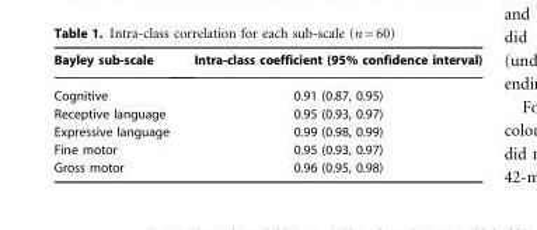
<table><thead><tr><td>Bayley sub-scale</td><td>Intra-class coefficient (95% confidence interval)</td></tr></thead><tbody><tr><td>Cognitive</td><td>0.91 (0.87, 0.95)</td></tr><tr><td>Receptive language</td><td>0.95 (0.93, 0.97)</td></tr><tr><td>Expressive language</td><td>0.99 (0.98, 0.99)</td></tr><tr><td>Fine motor</td><td>0.95 (0.93, 0.97)</td></tr><tr><td>Gross motor</td><td>0.96 (0.95, 0.98)</td></tr></tbody></table>